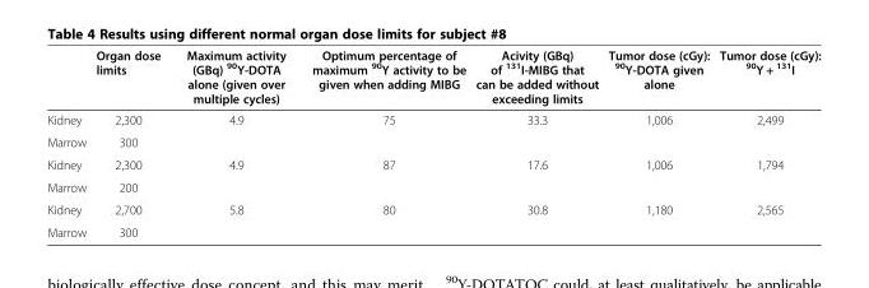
<table><thead><tr><td></td><td>Organ dose limits</td><td>Maximum activity (GBq) <sup>90</sup>Y-DOTA alone (given over multiple cycles)</td><td>Optimum percentage of maximum <sup>90</sup>Y activity to be given when adding MIBG</td><td>Acivity (GBq) of <sup>131</sup>I-MIBG that can be added without exceeding limits</td><td>Tumor dose (cGy): <sup>90</sup>Y-DOTA given alone</td><td>Tumor dose (cGy): <sup>90</sup>Y + <sup>131</sup>I</td></tr></thead><tbody><tr><td>Kidney</td><td>2,300</td><td rowspan="2">4.9</td><td rowspan="2">75</td><td rowspan="2">33.3</td><td rowspan="2">1,006</td><td rowspan="2">2,499</td></tr><tr><td>Marrow</td><td>300</td></tr><tr><td>Kidney</td><td>2,300</td><td rowspan="2">4.9</td><td rowspan="2">87</td><td rowspan="2">17.6</td><td rowspan="2">1,006</td><td rowspan="2">1,794</td></tr><tr><td>Marrow</td><td>200</td></tr><tr><td>Kidney</td><td>2,700</td><td rowspan="2">5.8</td><td rowspan="2">80</td><td rowspan="2">30.8</td><td rowspan="2">1,180</td><td rowspan="2">2,565</td></tr><tr><td>Marrow</td><td>300</td></tr></tbody></table>